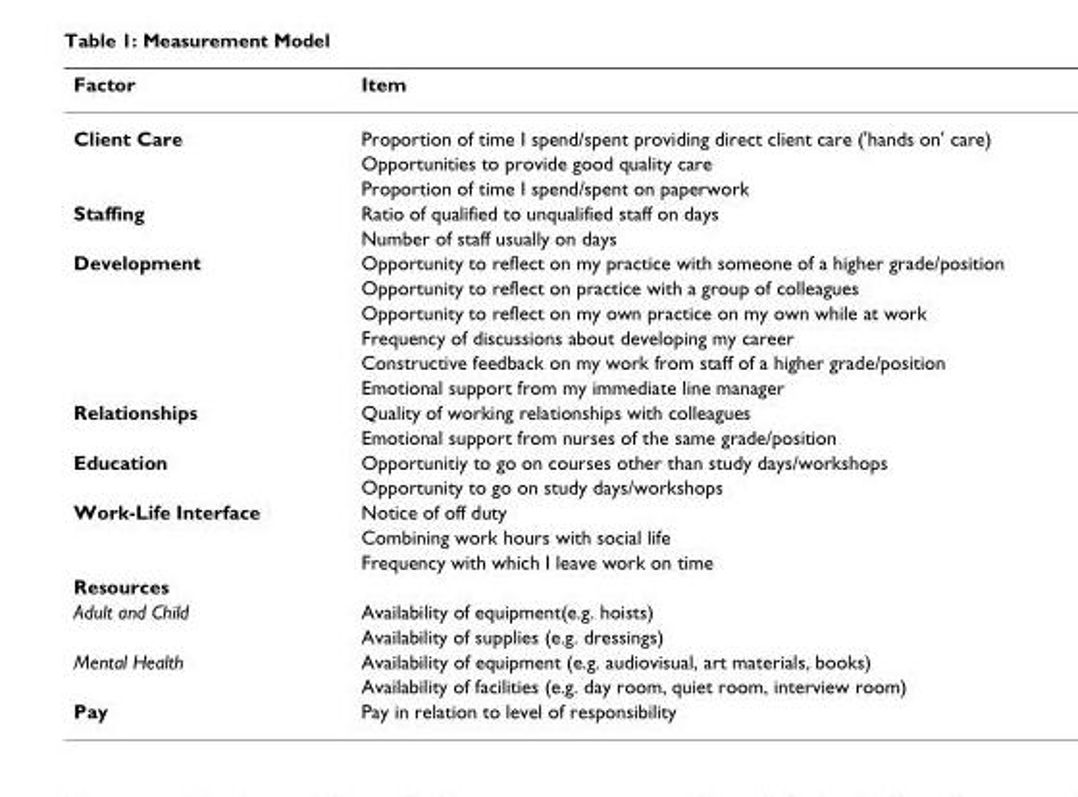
<table><thead><tr><td>Factor</td><td>Item</td></tr></thead><tbody><tr><td rowspan="3">Client Care</td><td>Proportion of time I spend/spent providing direct client care (&#x27;hands on&#x27; care)</td></tr><tr><td>Opportunities to provide good quality care</td></tr><tr><td>Proportion of time I spend/spent on paperwork</td></tr><tr><td rowspan="2">Staffing</td><td>Ratio of qualified to unqualified staff on days</td></tr><tr><td>Number of staff usually on days</td></tr><tr><td rowspan="6">Development</td><td>Opportunity to reflect on my practice with someone of a higher grade/position</td></tr><tr><td>Opportunity to reflect on practice with a group of colleagues</td></tr><tr><td>Opportunity to reflect on my own practice on my own while at work</td></tr><tr><td>Frequency of discussions about developing my career</td></tr><tr><td>Constructive feedback on my work from staff of a higher grade/position</td></tr><tr><td>Emotional support from my immediate line manager</td></tr><tr><td rowspan="2">Relationships</td><td>Quality of working relationships with colleagues</td></tr><tr><td>Emotional support from nurses of the same grade/position</td></tr><tr><td rowspan="2">Education</td><td>Opportunitiy to go on courses other than study days/workshops</td></tr><tr><td>Opportunity to go on study days/workshops</td></tr><tr><td rowspan="3">Work-Life Interface</td><td>Notice of off duty</td></tr><tr><td>Combining work hours with social life</td></tr><tr><td>Frequency with which I leave work on time</td></tr><tr><td colspan="2">Resources</td></tr><tr><td rowspan="2">Adult and Child</td><td>Availability of equipment(e.g. hoists)</td></tr><tr><td>Availability of supplies (e.g. dressings)</td></tr><tr><td rowspan="2">Mental Health</td><td>Availability of equipment (e.g. audiovisual, art materials, books)</td></tr><tr><td>Availability of facilities (e.g. day room, quiet room, interview room)</td></tr><tr><td>Pay</td><td>Pay in relation to level of responsibility</td></tr></tbody></table>